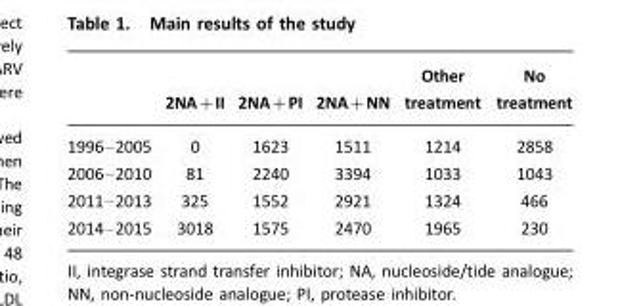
<table><thead><tr><td></td><td>2NA+II</td><td>2NA+PI</td><td>2NA+NN</td><td>Other treatment</td><td>No treatment</td></tr></thead><tbody><tr><td>1996–2005</td><td>0</td><td>1623</td><td>1511</td><td>1214</td><td>2858</td></tr><tr><td>2006–2010</td><td>81</td><td>2240</td><td>3394</td><td>1033</td><td>1043</td></tr><tr><td>2011–2013</td><td>325</td><td>1552</td><td>2921</td><td>1324</td><td>466</td></tr><tr><td>2014–2015</td><td>3018</td><td>1575</td><td>2470</td><td>1965</td><td>230</td></tr></tbody></table>